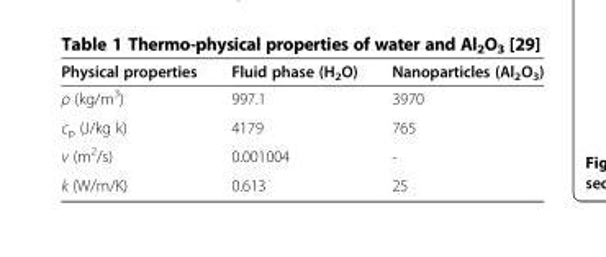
<table><thead><tr><td>Physical properties</td><td>Fluid phase (H<sub>2</sub>O)</td><td>Nanoparticles (Al<sub>2</sub>O<sub>3</sub>)</td></tr></thead><tbody><tr><td>ρ (kg/m<sup>3</sup>)</td><td>997.1</td><td>3970</td></tr><tr><td>c<sub>p</sub> (J/kg k)</td><td>4179</td><td>765</td></tr><tr><td>v (m<sup>2</sup>/s)</td><td>0.001004</td><td>-</td></tr><tr><td>k (W/m/K)</td><td>0.613</td><td>25</td></tr></tbody></table>